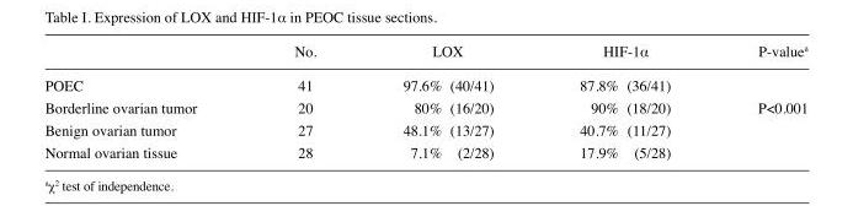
<table><thead><tr><td></td><td>No.</td><td>LOX</td><td>HIF-1α</td><td>P-value<sup>a</sup></td></tr></thead><tbody><tr><td>POEC</td><td>41</td><td>97.6% (40/41)</td><td>87.8% (36/41)</td><td></td></tr><tr><td>Borderline ovarian tumor</td><td>20</td><td>80% (16/20)</td><td>90% (18/20)</td><td>P&lt;0.001</td></tr><tr><td>Benign ovarian tumor</td><td>27</td><td>48.1% (13/27)</td><td>40.7% (11/27)</td><td></td></tr><tr><td>Normal ovarian tissue</td><td>28</td><td>7.1% (2/28)</td><td>17.9% (5/28)</td><td></td></tr></tbody></table>